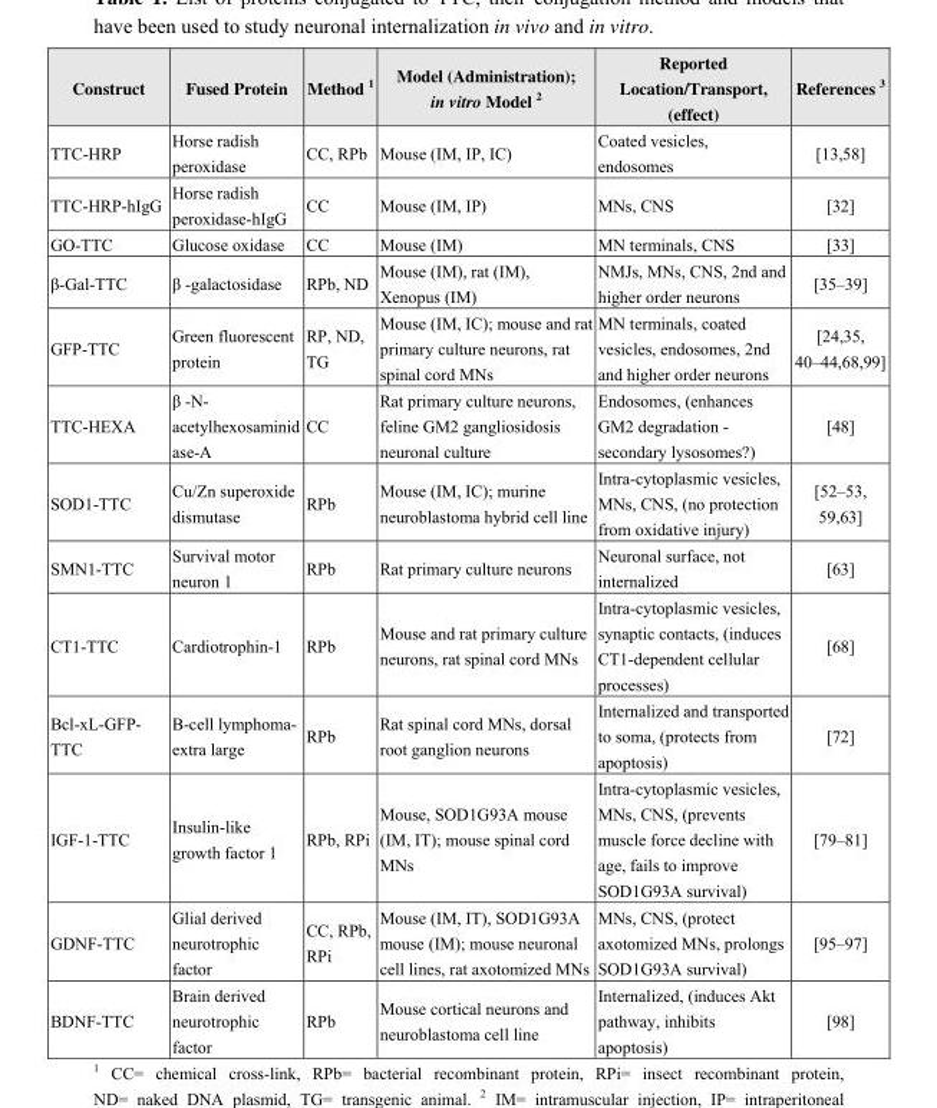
<table><thead><tr><td>Construct</td><td>Fused Protein</td><td>Method <sup>1</sup></td><td>Model (Administration); in vitro Model <sup>2</sup></td><td>Reported Location/Transport, (effect)</td><td>References <sup>3</sup></td></tr></thead><tbody><tr><td>TTC-HRP</td><td>Horse radish peroxidase</td><td>CC, RPb</td><td>Mouse (IM, IP, IC)</td><td>Coated vesicles, endosomes</td><td>[13,58]</td></tr><tr><td>TTC-HRP-hIgG</td><td>Horse radish peroxidase-hIgG</td><td>CC</td><td>Mouse (IM, IP)</td><td>MNs, CNS</td><td>[32]</td></tr><tr><td>GO-TTC</td><td>Glucose oxidase</td><td>CC</td><td>Mouse (IM)</td><td>MN terminals, CNS</td><td>[33]</td></tr><tr><td>β-Gal-TTC</td><td>β -galactosidase</td><td>RPb, ND</td><td>Mouse (IM), rat (IM), Xenopus (IM)</td><td>NMJs, MNs, CNS, 2nd and higher order neurons</td><td>[35–39]</td></tr><tr><td>GFP-TTC</td><td>Green fluorescent protein</td><td>RP, ND, TG</td><td>Mouse (IM, IC); mouse and rat primary culture neurons, rat spinal cord MNs</td><td>MN terminals, coated vesicles, endosomes, 2nd and higher order neurons</td><td>[24,35, 40–44,68,99]</td></tr><tr><td>TTC-HEXA</td><td>β -N- acetylhexosaminid ase-A</td><td>CC</td><td>Rat primary culture neurons, feline GM2 gangliosidosis neuronal culture</td><td>Endosomes, (enhances GM2 degradation - secondary lysosomes?)</td><td>[48]</td></tr><tr><td>SOD1-TTC</td><td>Cu/Zn superoxide dismutase</td><td>RPb</td><td>Mouse (IM, IC); murine neuroblastoma hybrid cell line</td><td>Intra-cytoplasmic vesicles, MNs, CNS, (no protection from oxidative injury)</td><td>[52–53, 59,63]</td></tr><tr><td>SMN1-TTC</td><td>Survival motor neuron 1</td><td>RPb</td><td>Rat primary culture neurons</td><td>Neuronal surface, not internalized</td><td>[63]</td></tr><tr><td>CT1-TTC</td><td>Cardiotrophin-1</td><td>RPb</td><td>Mouse and rat primary culture neurons, rat spinal cord MNs</td><td>Intra-cytoplasmic vesicles, synaptic contacts, (induces CT1-dependent cellular processes)</td><td>[68]</td></tr><tr><td>Bcl-xL-GFP- TTC</td><td>B-cell lymphoma- extra large</td><td>RPb</td><td>Rat spinal cord MNs, dorsal root ganglion neurons</td><td>Internalized and transported to soma, (protects from apoptosis)</td><td>[72]</td></tr><tr><td>IGF-1-TTC</td><td>Insulin-like growth factor 1</td><td>RPb, RPi</td><td>Mouse, SOD1G93A mouse (IM, IT); mouse spinal cord MNs</td><td>Intra-cytoplasmic vesicles, MNs, CNS, (prevents muscle force decline with age, fails to improve SOD1G93A survival)</td><td>[79–81]</td></tr><tr><td>GDNF-TTC</td><td>Glial derived neurotrophic factor</td><td>CC, RPb, RPi</td><td>Mouse (IM, IT), SOD1G93A mouse (IM); mouse neuronal cell lines, rat axotomized MNs</td><td>MNs, CNS, (protect axotomized MNs, prolongs SOD1G93A survival)</td><td>[95–97]</td></tr><tr><td>BDNF-TTC</td><td>Brain derived neurotrophic factor</td><td>RPb</td><td>Mouse cortical neurons and neuroblastoma cell line</td><td>Internalized, (induces Akt pathway, inhibits apoptosis)</td><td>[98]</td></tr></tbody></table>